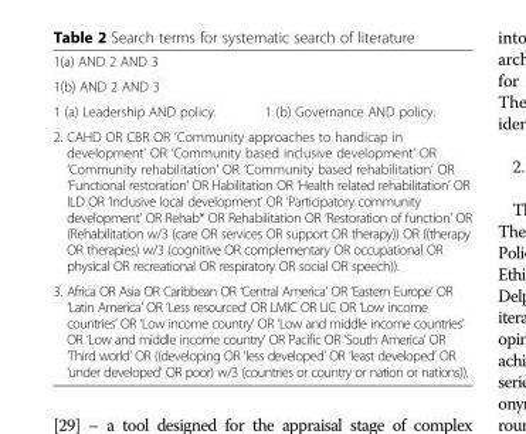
<table><tbody><tr><td colspan="2">1(a) AND 2 AND 3</td></tr><tr><td colspan="2">1(b) AND 2 AND 3</td></tr><tr><td>1 (a) Leadership AND policy.</td><td>1 (b) Governance AND policy.</td></tr><tr><td colspan="2">2. CAHD OR CBR OR ‘Community approaches to handicap in development’ OR ‘Community based inclusive development’ OR ‘Community rehabilitation’ OR ‘Community based rehabilitation’ OR ‘Functional restoration’ OR Habilitation OR ‘Health related rehabilitation’ OR ILD OR ‘Inclusive local development’ OR ‘Participatory community development’ OR Rehab* OR Rehabilitation OR ‘Restoration of function’ OR (Rehabilitation w/3 (care OR services OR support OR therapy)) OR ((therapy OR therapies) w/3 (cognitive OR complementary OR occupational OR physical OR recreational OR respiratory OR social OR speech)).</td></tr><tr><td colspan="2">3. Africa OR Asia OR Caribbean OR ‘Central America’ OR ‘Eastern Europe’ OR ‘Latin America’ OR ‘Less resourced’ OR LMIC OR LIC OR ‘Low income countries’ OR ‘Low income country’ OR ‘Low and middle income countries’ OR ‘Low and middle income country’ OR Pacific OR ‘South America’ OR ‘Third world’ OR ((developing OR ‘less developed’ OR ‘least developed’ OR ‘under developed’ OR poor) w/3 (countries or country or nation or nations)).</td></tr></tbody></table>